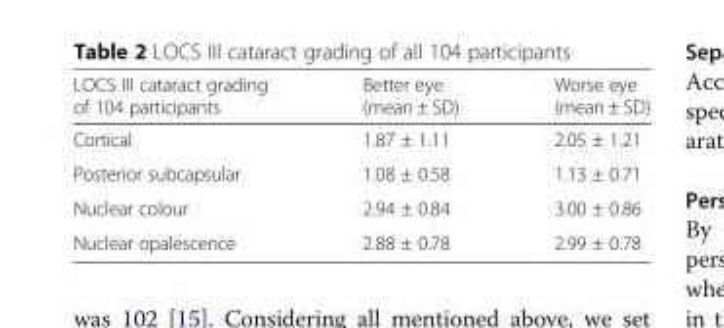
<table><thead><tr><td>LOCS III cataract grading of 104 participants</td><td>Better eye (mean ± SD)</td><td>Worse eye (mean ± SD)</td></tr></thead><tbody><tr><td>Cortical</td><td>1.87 ± 1.11</td><td>2.05 ± 1.21</td></tr><tr><td>Posterior subcapsular</td><td>1.08 ± 0.58</td><td>1.13 ± 0.71</td></tr><tr><td>Nuclear colour</td><td>2.94 ± 0.84</td><td>3.00 ± 0.86</td></tr><tr><td>Nuclear opalescence</td><td>2.88 ± 0.78</td><td>2.99 ± 0.78</td></tr></tbody></table>